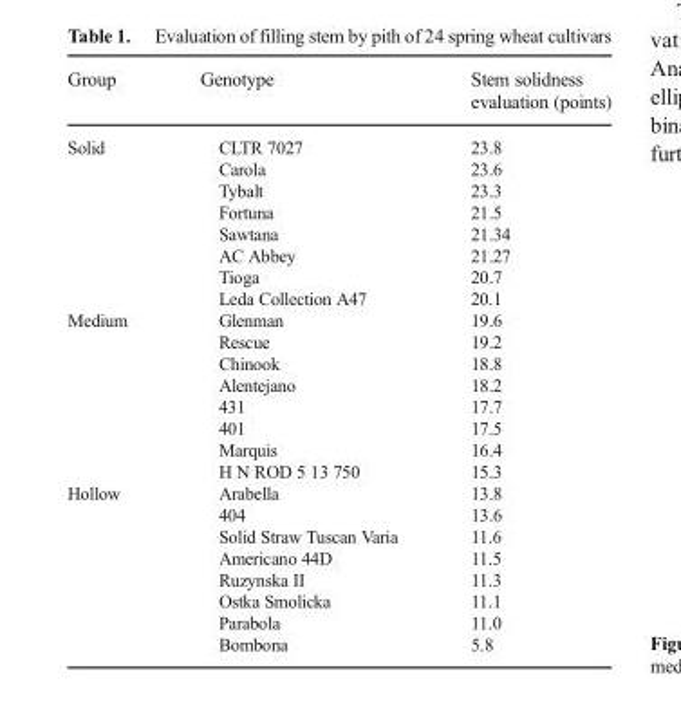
<table><thead><tr><td>Group</td><td>Genotype</td><td>Stem solidness evaluation (points)</td></tr></thead><tbody><tr><td rowspan="8">Solid</td><td>CLTR 7027</td><td>23.8</td></tr><tr><td>Carola</td><td>23.6</td></tr><tr><td>Tybalt</td><td>23.3</td></tr><tr><td>Fortuna</td><td>21.5</td></tr><tr><td>Sawtana</td><td>21.34</td></tr><tr><td>AC Abbey</td><td>21.27</td></tr><tr><td>Tioga</td><td>20.7</td></tr><tr><td>Leda Collection A47</td><td>20.1</td></tr><tr><td rowspan="8">Medium</td><td>Glenman</td><td>19.6</td></tr><tr><td>Rescue</td><td>19.2</td></tr><tr><td>Chinook</td><td>18.8</td></tr><tr><td>Alentejano</td><td>18.2</td></tr><tr><td>431</td><td>17.7</td></tr><tr><td>401</td><td>17.5</td></tr><tr><td>Marquis</td><td>16.4</td></tr><tr><td>H N ROD 5 13 750</td><td>15.3</td></tr><tr><td rowspan="8">Hollow</td><td>Arabella</td><td>13.8</td></tr><tr><td>404</td><td>13.6</td></tr><tr><td>Solid Straw Tuscan Varia</td><td>11.6</td></tr><tr><td>Americano 44D</td><td>11.5</td></tr><tr><td>Ruzynska II</td><td>11.3</td></tr><tr><td>Ostka Smolicka</td><td>11.1</td></tr><tr><td>Parabola</td><td>11.0</td></tr><tr><td>Bombona</td><td>5.8</td></tr></tbody></table>